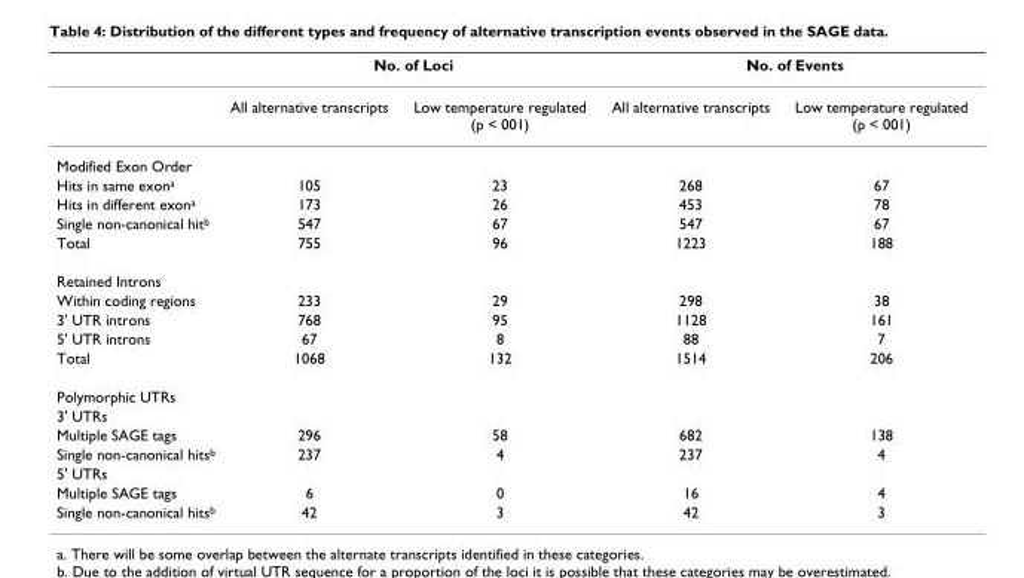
<table><thead><tr><td rowspan="2"></td><td colspan="2">No. of Loci</td><td colspan="2">No. of Events</td></tr><tr><td>All alternative transcripts</td><td>Low temperature regulated (p &lt; 001)</td><td>All alternative transcripts</td><td>Low temperature regulated (p &lt; 001)</td></tr></thead><tbody><tr><td colspan="5">Modified Exon Order</td></tr><tr><td>Hits in same exon<sup>a</sup></td><td>105</td><td>23</td><td>268</td><td>67</td></tr><tr><td>Hits in different exon<sup>a</sup></td><td>173</td><td>26</td><td>453</td><td>78</td></tr><tr><td>Single non-canonical hit<sup>b</sup></td><td>547</td><td>67</td><td>547</td><td>67</td></tr><tr><td>Total</td><td>755</td><td>96</td><td>1223</td><td>188</td></tr><tr><td colspan="5">Retained Introns</td></tr><tr><td>Within coding regions</td><td>233</td><td>29</td><td>298</td><td>38</td></tr><tr><td>3&#x27; UTR introns</td><td>768</td><td>95</td><td>1128</td><td>161</td></tr><tr><td>5&#x27; UTR introns</td><td>67</td><td>8</td><td>88</td><td>7</td></tr><tr><td>Total</td><td>1068</td><td>132</td><td>1514</td><td>206</td></tr><tr><td colspan="5">Polymorphic UTRs</td></tr><tr><td colspan="5">3&#x27; UTRs</td></tr><tr><td>Multiple SAGE tags</td><td>296</td><td>58</td><td>682</td><td>138</td></tr><tr><td>Single non-canonical hits<sup>b</sup></td><td>237</td><td>4</td><td>237</td><td>4</td></tr><tr><td colspan="5">5&#x27; UTRs</td></tr><tr><td>Multiple SAGE tags</td><td>6</td><td>0</td><td>16</td><td>4</td></tr><tr><td>Single non-canonical hits<sup>b</sup></td><td>42</td><td>3</td><td>42</td><td>3</td></tr></tbody></table>